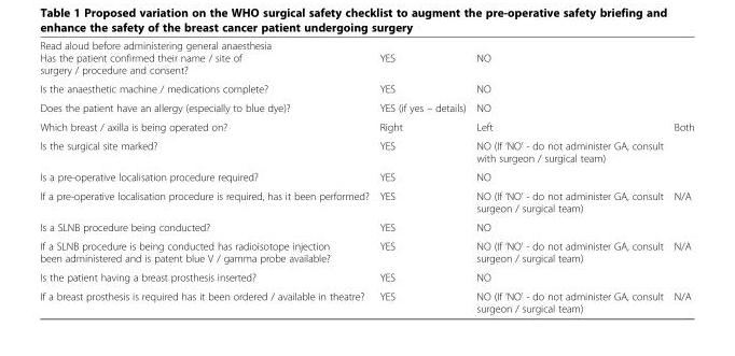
<table><tbody><tr><td colspan="4">Read aloud before administering general anaesthesia</td></tr><tr><td>Has the patient confirmed their name / site of surgery / procedure and consent?</td><td>YES</td><td>NO</td><td></td></tr><tr><td>Is the anaesthetic machine / medications complete?</td><td>YES</td><td>NO</td><td></td></tr><tr><td>Does the patient have an allergy (especially to blue dye)?</td><td>YES (if yes – details)</td><td>NO</td><td></td></tr><tr><td>Which breast / axilla is being operated on?</td><td>Right</td><td>Left</td><td>Both</td></tr><tr><td>Is the surgical site marked?</td><td>YES</td><td>NO (If ‘NO’ - do not administer GA, consult with surgeon / surgical team)</td><td></td></tr><tr><td>Is a pre-operative localisation procedure required?</td><td>YES</td><td>NO</td><td></td></tr><tr><td>If a pre-operative localisation procedure is required, has it been performed?</td><td>YES</td><td>NO (If ‘NO’ - do not administer GA, consult surgeon / surgical team)</td><td>N/A</td></tr><tr><td>Is a SLNB procedure being conducted?</td><td>YES</td><td>NO</td><td></td></tr><tr><td>If a SLNB procedure is being conducted has radioisotope injection been administered and is patent blue V / gamma probe available?</td><td>YES</td><td>NO (If ‘NO’ - do not administer GA, consult surgeon / surgical team)</td><td>N/A</td></tr><tr><td>Is the patient having a breast prosthesis inserted?</td><td>YES</td><td>NO</td><td></td></tr><tr><td>If a breast prosthesis is required has it been ordered / available in theatre?</td><td>YES</td><td>NO (If ‘NO’ - do not administer GA, consult surgeon / surgical team)</td><td>N/A</td></tr></tbody></table>